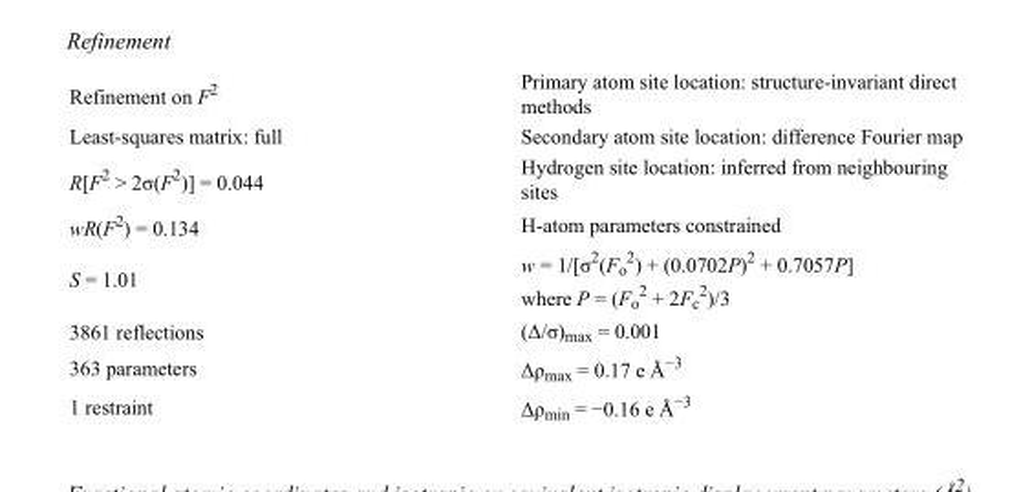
<table><tbody><tr><td>Refinement on F<sup>2</sup></td><td>Primary atom site location: structure-invariant direct methods</td></tr><tr><td>Least-squares matrix: full</td><td>Secondary atom site location: difference Fourier map</td></tr><tr><td>R[F<sup>2</sup> &gt; 2σ(F<sup>2</sup>)] = 0.044</td><td>Hydrogen site location: inferred from neighbouring sites</td></tr><tr><td>wR(F<sup>2</sup>) = 0.134</td><td>H-atom parameters constrained</td></tr><tr><td>S = 1.01</td><td>w = 1/[σ<sup>2</sup>(F<sub>o</sub> <sup>2</sup>) + (0.0702P)<sup>2</sup> + 0.7057P] where P = (F<sub>o</sub> <sup>2</sup> + 2F<sub>c</sub> <sup>2</sup>)/3</td></tr><tr><td>3861 reflections</td><td>(Δ/σ)<sub>max</sub> = 0.001</td></tr><tr><td>363 parameters</td><td>Δρ<sub>max</sub> = 0.17 e Å<sup>−3</sup></td></tr><tr><td>1 restraint</td><td>Δρ<sub>min</sub> = −0.16 e Å<sup>−3</sup></td></tr></tbody></table>